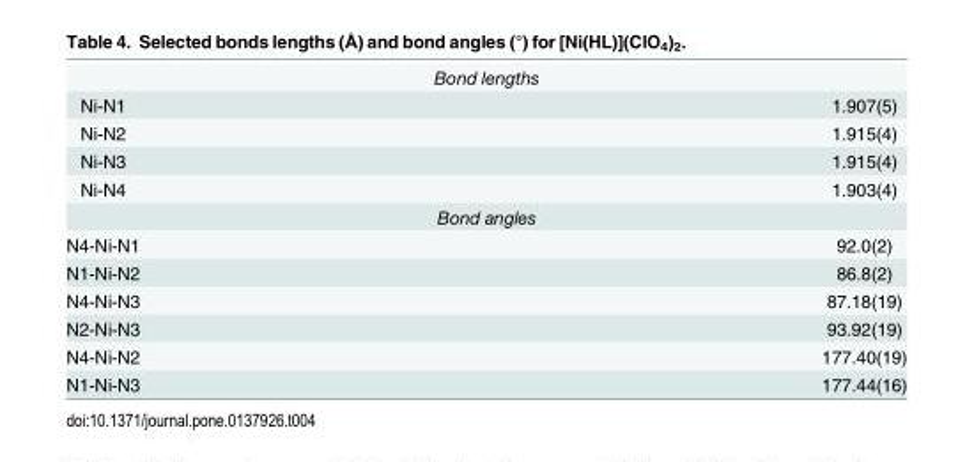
<table><tbody><tr><td colspan="2">Bond lengths</td></tr><tr><td>Ni-N1</td><td>1.907(5)</td></tr><tr><td>Ni-N2</td><td>1.915(4)</td></tr><tr><td>Ni-N3</td><td>1.915(4)</td></tr><tr><td>Ni-N4</td><td>1.903(4)</td></tr><tr><td colspan="2">Bond angles</td></tr><tr><td>N4-Ni-N1</td><td>92.0(2)</td></tr><tr><td>N1-Ni-N2</td><td>86.8(2)</td></tr><tr><td>N4-Ni-N3</td><td>87.18(19)</td></tr><tr><td>N2-Ni-N3</td><td>93.92(19)</td></tr><tr><td>N4-Ni-N2</td><td>177.40(19)</td></tr><tr><td>N1-Ni-N3</td><td>177.44(16)</td></tr></tbody></table>